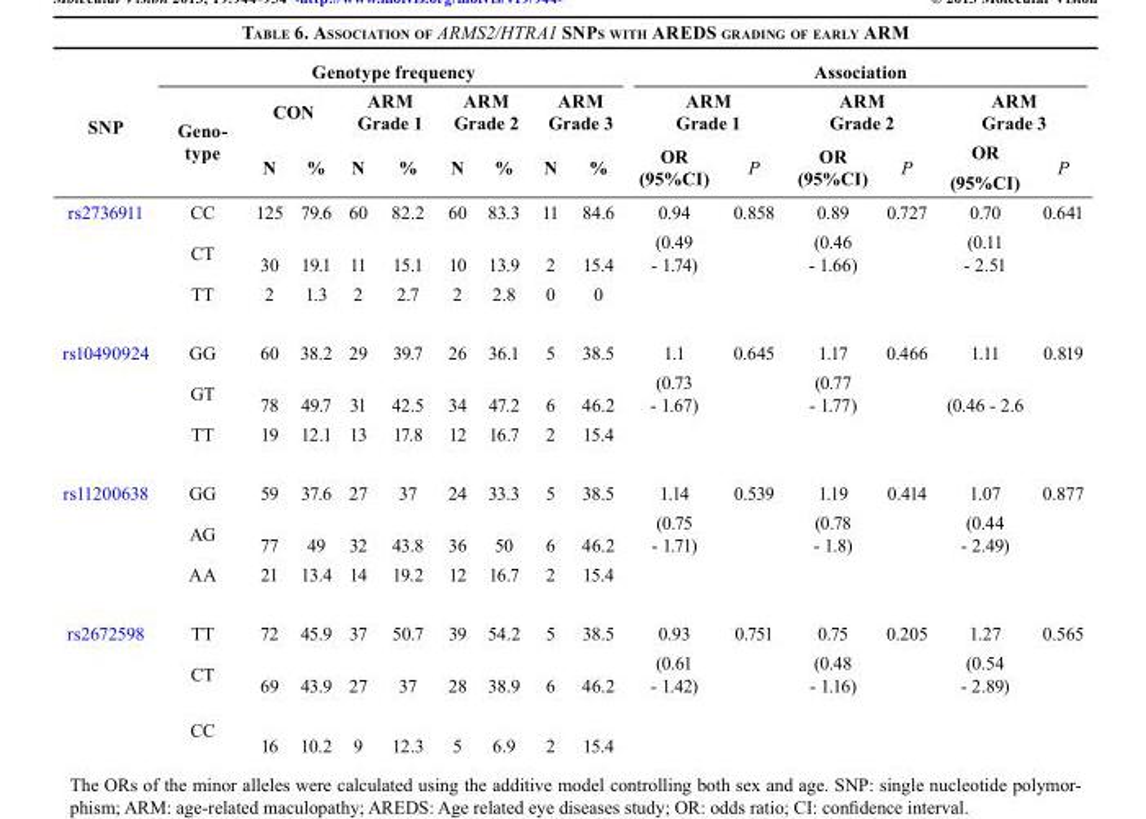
<table><thead><tr><td rowspan="3">SNP</td><td colspan="9">Genotype frequency</td><td colspan="6">Association</td></tr><tr><td rowspan="2">Geno- type</td><td colspan="2">CON</td><td colspan="2">ARM Grade 1</td><td colspan="2">ARM Grade 2</td><td colspan="2">ARM Grade 3</td><td colspan="2">ARM Grade 1</td><td colspan="2">ARM Grade 2</td><td colspan="2">ARM Grade 3</td></tr><tr><td>N</td><td>%</td><td>N</td><td>%</td><td>N</td><td>%</td><td>N</td><td>%</td><td>OR (95%CI)</td><td>P</td><td>OR (95%CI)</td><td>P</td><td>OR (95%CI)</td><td>P</td></tr></thead><tbody><tr><td rowspan="3">rs2736911</td><td>CC</td><td>125</td><td>79.6</td><td>60</td><td>82.2</td><td>60</td><td>83.3</td><td>11</td><td>84.6</td><td>0.94</td><td>0.858</td><td>0.89</td><td>0.727</td><td>0.70</td><td>0.641</td></tr><tr><td>CT</td><td>30</td><td>19.1</td><td>11</td><td>15.1</td><td>10</td><td>13.9</td><td>2</td><td>15.4</td><td>(0.49 - 1.74)</td><td></td><td>(0.46 - 1.66)</td><td></td><td>(0.11 - 2.51</td><td></td></tr><tr><td>TT</td><td>2</td><td>1.3</td><td>2</td><td>2.7</td><td>2</td><td>2.8</td><td>0</td><td>0</td><td></td><td></td><td></td><td></td><td></td><td></td></tr><tr><td rowspan="3">rs10490924</td><td>GG</td><td>60</td><td>38.2</td><td>29</td><td>39.7</td><td>26</td><td>36.1</td><td>5</td><td>38.5</td><td>1.1</td><td>0.645</td><td>1.17</td><td>0.466</td><td>1.11</td><td>0.819</td></tr><tr><td>GT</td><td>78</td><td>49.7</td><td>31</td><td>42.5</td><td>34</td><td>47.2</td><td>6</td><td>46.2</td><td>(0.73 - 1.67)</td><td></td><td>(0.77 - 1.77)</td><td></td><td>(0.46 - 2.6</td><td></td></tr><tr><td>TT</td><td>19</td><td>12.1</td><td>13</td><td>17.8</td><td>12</td><td>16.7</td><td>2</td><td>15.4</td><td></td><td></td><td></td><td></td><td></td><td></td></tr><tr><td rowspan="3">rs11200638</td><td>GG</td><td>59</td><td>37.6</td><td>27</td><td>37</td><td>24</td><td>33.3</td><td>5</td><td>38.5</td><td>1.14</td><td>0.539</td><td>1.19</td><td>0.414</td><td>1.07</td><td>0.877</td></tr><tr><td>AG</td><td>77</td><td>49</td><td>32</td><td>43.8</td><td>36</td><td>50</td><td>6</td><td>46.2</td><td>(0.75 - 1.71)</td><td></td><td>(0.78 - 1.8)</td><td></td><td>(0.44 - 2.49)</td><td></td></tr><tr><td>AA</td><td>21</td><td>13.4</td><td>14</td><td>19.2</td><td>12</td><td>16.7</td><td>2</td><td>15.4</td><td></td><td></td><td></td><td></td><td></td><td></td></tr><tr><td rowspan="3">rs2672598</td><td>TT</td><td>72</td><td>45.9</td><td>37</td><td>50.7</td><td>39</td><td>54.2</td><td>5</td><td>38.5</td><td>0.93</td><td>0.751</td><td>0.75</td><td>0.205</td><td>1.27</td><td>0.565</td></tr><tr><td>CT</td><td>69</td><td>43.9</td><td>27</td><td>37</td><td>28</td><td>38.9</td><td>6</td><td>46.2</td><td>(0.61 - 1.42)</td><td></td><td>(0.48 - 1.16)</td><td></td><td>(0.54 - 2.89)</td><td></td></tr><tr><td>CC</td><td>16</td><td>10.2</td><td>9</td><td>12.3</td><td>5</td><td>6.9</td><td>2</td><td>15.4</td><td></td><td></td><td></td><td></td><td></td><td></td></tr></tbody></table>